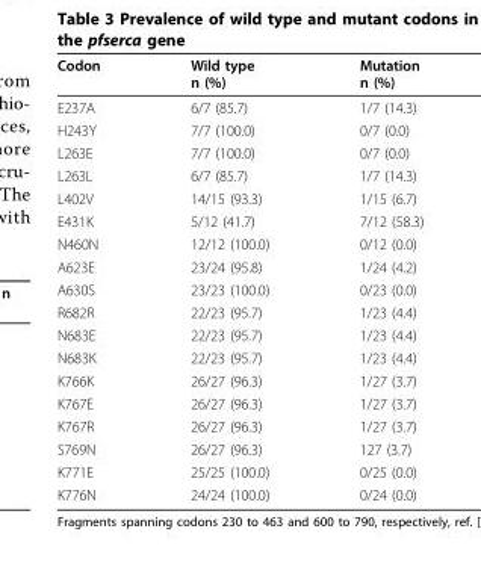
<table><thead><tr><td>Codon</td><td>Wild type n (%)</td><td>Mutation n (%)</td></tr></thead><tbody><tr><td>E237A</td><td>6/7 (85.7)</td><td>1/7 (14.3)</td></tr><tr><td>H243Y</td><td>7/7 (100.0)</td><td>0/7 (0.0)</td></tr><tr><td>L263E</td><td>7/7 (100.0)</td><td>0/7 (0.0)</td></tr><tr><td>L263L</td><td>6/7 (85.7)</td><td>1/7 (14.3)</td></tr><tr><td>L402V</td><td>14/15 (93.3)</td><td>1/15 (6.7)</td></tr><tr><td>E431K</td><td>5/12 (41.7)</td><td>7/12 (58.3)</td></tr><tr><td>N460N</td><td>12/12 (100.0)</td><td>0/12 (0.0)</td></tr><tr><td>A623E</td><td>23/24 (95.8)</td><td>1/24 (4.2)</td></tr><tr><td>A630S</td><td>23/23 (100.0)</td><td>0/23 (0.0)</td></tr><tr><td>R682R</td><td>22/23 (95.7)</td><td>1/23 (4.4)</td></tr><tr><td>N683E</td><td>22/23 (95.7)</td><td>1/23 (4.4)</td></tr><tr><td>N683K</td><td>22/23 (95.7)</td><td>1/23 (4.4)</td></tr><tr><td>K766K</td><td>26/27 (96.3)</td><td>1/27 (3.7)</td></tr><tr><td>K767E</td><td>26/27 (96.3)</td><td>1/27 (3.7)</td></tr><tr><td>K767R</td><td>26/27 (96.3)</td><td>1/27 (3.7)</td></tr><tr><td>S769N</td><td>26/27 (96.3)</td><td>127 (3.7)</td></tr><tr><td>K771E</td><td>25/25 (100.0)</td><td>0/25 (0.0)</td></tr><tr><td>K776N</td><td>24/24 (100.0)</td><td>0/24 (0.0)</td></tr></tbody></table>